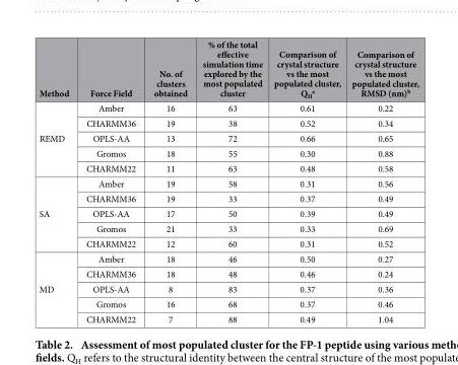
<table><thead><tr><td>Method</td><td>Force Field</td><td>No. of clusters obtained</td><td>% of the total effective simulation time explored by the most populated cluster</td><td>Comparison of crystal structure vs the most populated cluster, Q<sub>H</sub> <sup>a</sup></td><td>Comparison of crystal structure vs the most populated cluster, RMSD (nm)<sup>b</sup></td></tr></thead><tbody><tr><td rowspan="5">REMD</td><td>Amber</td><td>16</td><td>63</td><td>0.61</td><td>0.22</td></tr><tr><td>CHARMM36</td><td>19</td><td>38</td><td>0.52</td><td>0.34</td></tr><tr><td>OPLS-AA</td><td>13</td><td>72</td><td>0.66</td><td>0.65</td></tr><tr><td>Gromos</td><td>18</td><td>55</td><td>0.30</td><td>0.88</td></tr><tr><td>CHARMM22</td><td>11</td><td>63</td><td>0.48</td><td>0.58</td></tr><tr><td rowspan="5">SA</td><td>Amber</td><td>19</td><td>58</td><td>0.31</td><td>0.56</td></tr><tr><td>CHARMM36</td><td>19</td><td>33</td><td>0.37</td><td>0.49</td></tr><tr><td>OPLS-AA</td><td>17</td><td>50</td><td>0.39</td><td>0.49</td></tr><tr><td>Gromos</td><td>21</td><td>33</td><td>0.33</td><td>0.69</td></tr><tr><td>CHARMM22</td><td>12</td><td>60</td><td>0.31</td><td>0.52</td></tr><tr><td rowspan="5">MD</td><td>Amber</td><td>18</td><td>46</td><td>0.50</td><td>0.27</td></tr><tr><td>CHARMM36</td><td>18</td><td>48</td><td>0.46</td><td>0.24</td></tr><tr><td>OPLS-AA</td><td>8</td><td>83</td><td>0.37</td><td>0.36</td></tr><tr><td>Gromos</td><td>16</td><td>68</td><td>0.37</td><td>0.46</td></tr><tr><td>CHARMM22</td><td>7</td><td>88</td><td>0.49</td><td>1.04</td></tr></tbody></table>